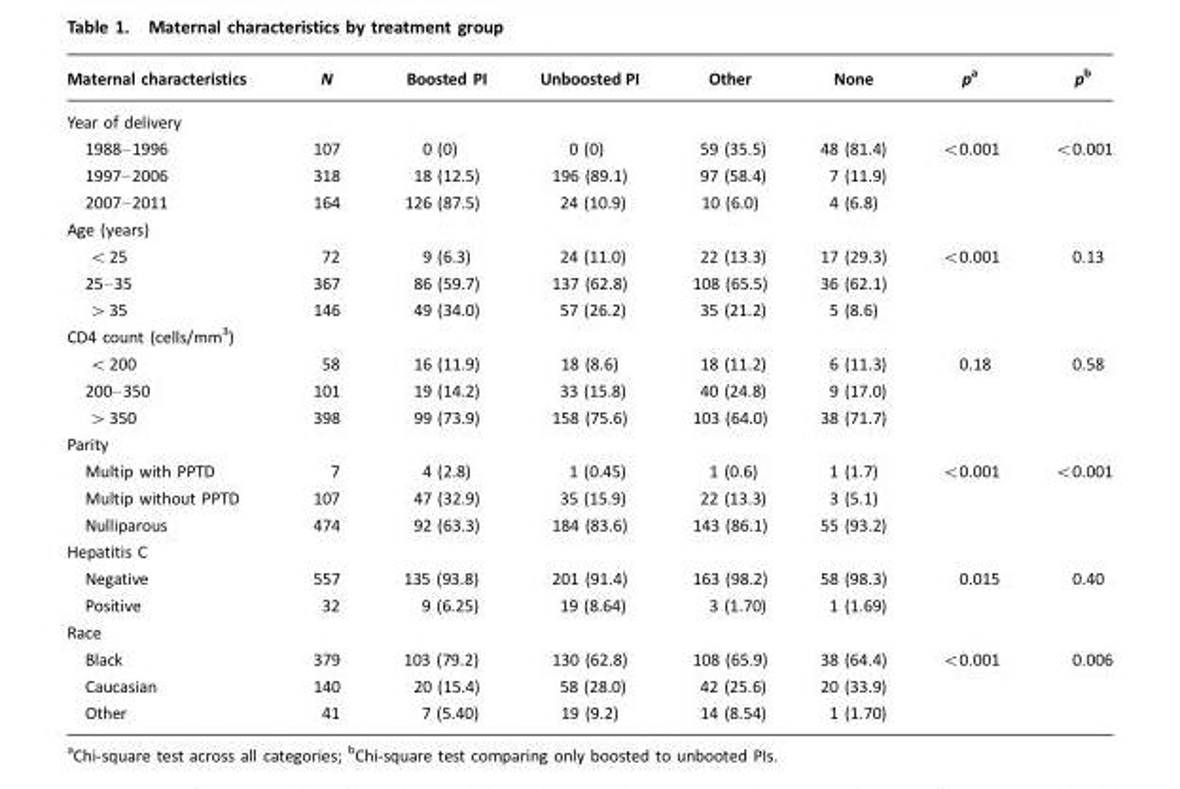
<table><thead><tr><td>Maternal characteristics</td><td>N</td><td>Boosted PI</td><td>Unboosted PI</td><td>Other</td><td>None</td><td>p<sup>a</sup></td><td>p<sup>b</sup></td></tr></thead><tbody><tr><td colspan="8">Year of delivery</td></tr><tr><td>1988–1996</td><td>107</td><td>0 (0)</td><td>0 (0)</td><td>59 (35.5)</td><td>48 (81.4)</td><td>&lt;0.001</td><td>&lt;0.001</td></tr><tr><td>1997–2006</td><td>318</td><td>18 (12.5)</td><td>196 (89.1)</td><td>97 (58.4)</td><td>7 (11.9)</td><td></td><td></td></tr><tr><td>2007–2011</td><td>164</td><td>126 (87.5)</td><td>24 (10.9)</td><td>10 (6.0)</td><td>4 (6.8)</td><td></td><td></td></tr><tr><td colspan="8">Age (years)</td></tr><tr><td>&lt;25</td><td>72</td><td>9 (6.3)</td><td>24 (11.0)</td><td>22 (13.3)</td><td>17 (29.3)</td><td>&lt;0.001</td><td>0.13</td></tr><tr><td>25–35</td><td>367</td><td>86 (59.7)</td><td>137 (62.8)</td><td>108 (65.5)</td><td>36 (62.1)</td><td></td><td></td></tr><tr><td>&gt;35</td><td>146</td><td>49 (34.0)</td><td>57 (26.2)</td><td>35 (21.2)</td><td>5 (8.6)</td><td></td><td></td></tr><tr><td colspan="8">CD4 count (cells/mm<sup>3</sup>)</td></tr><tr><td>&lt;200</td><td>58</td><td>16 (11.9)</td><td>18 (8.6)</td><td>18 (11.2)</td><td>6 (11.3)</td><td>0.18</td><td>0.58</td></tr><tr><td>200–350</td><td>101</td><td>19 (14.2)</td><td>33 (15.8)</td><td>40 (24.8)</td><td>9 (17.0)</td><td></td><td></td></tr><tr><td>&gt;350</td><td>398</td><td>99 (73.9)</td><td>158 (75.6)</td><td>103 (64.0)</td><td>38 (71.7)</td><td></td><td></td></tr><tr><td colspan="8">Parity</td></tr><tr><td>Multip with PPTD</td><td>7</td><td>4 (2.8)</td><td>1 (0.45)</td><td>1 (0.6)</td><td>1 (1.7)</td><td>&lt;0.001</td><td>&lt;0.001</td></tr><tr><td>Multip without PPTD</td><td>107</td><td>47 (32.9)</td><td>35 (15.9)</td><td>22 (13.3)</td><td>3 (5.1)</td><td></td><td></td></tr><tr><td>Nulliparous</td><td>474</td><td>92 (63.3)</td><td>184 (83.6)</td><td>143 (86.1)</td><td>55 (93.2)</td><td></td><td></td></tr><tr><td colspan="8">Hepatitis C</td></tr><tr><td>Negative</td><td>557</td><td>135 (93.8)</td><td>201 (91.4)</td><td>163 (98.2)</td><td>58 (98.3)</td><td>0.015</td><td>0.40</td></tr><tr><td>Positive</td><td>32</td><td>9 (6.25)</td><td>19 (8.64)</td><td>3 (1.70)</td><td>1 (1.69)</td><td></td><td></td></tr><tr><td colspan="8">Race</td></tr><tr><td>Black</td><td>379</td><td>103 (79.2)</td><td>130 (62.8)</td><td>108 (65.9)</td><td>38 (64.4)</td><td>&lt;0.001</td><td>0.006</td></tr><tr><td>Caucasian</td><td>140</td><td>20 (15.4)</td><td>58 (28.0)</td><td>42 (25.6)</td><td>20 (33.9)</td><td></td><td></td></tr><tr><td>Other</td><td>41</td><td>7 (5.40)</td><td>19 (9.2)</td><td>14 (8.54)</td><td>1 (1.70)</td><td></td><td></td></tr></tbody></table>